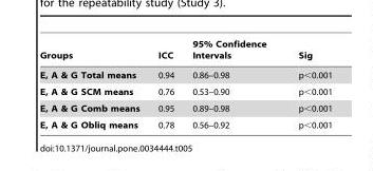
<table><thead><tr><td>Groups</td><td>ICC</td><td>95% Confidence Intervals</td><td>Sig</td></tr></thead><tbody><tr><td>E, A &amp; G Total means</td><td>0.94</td><td>0.86–0.98</td><td>p&lt;0.001</td></tr><tr><td>E, A &amp; G SCM means</td><td>0.76</td><td>0.53–0.90</td><td>p&lt;0.001</td></tr><tr><td>E, A &amp; G Comb means</td><td>0.95</td><td>0.89–0.98</td><td>p&lt;0.001</td></tr><tr><td>E, A &amp; G Obliq means</td><td>0.78</td><td>0.56–0.92</td><td>p&lt;0.001</td></tr></tbody></table>